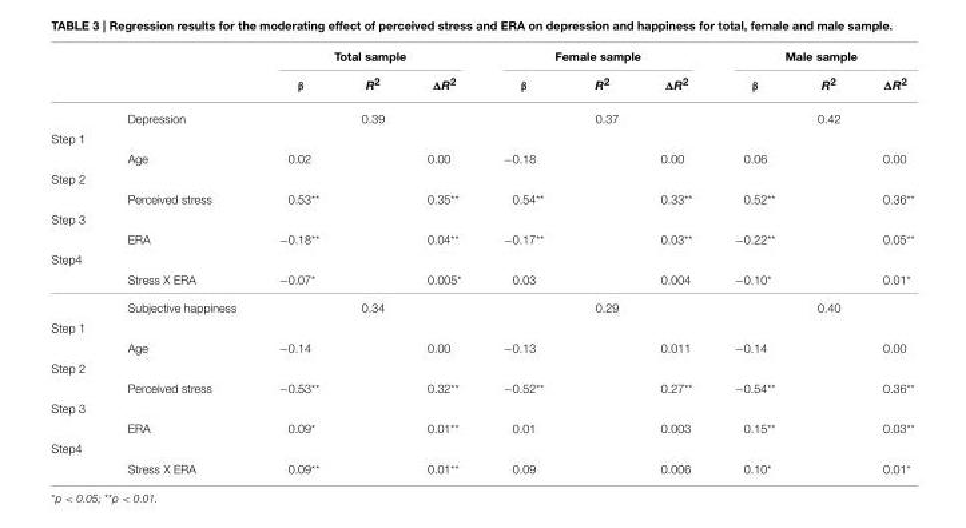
<table><thead><tr><td rowspan="2"></td><td rowspan="2"></td><td colspan="3">Total sample</td><td colspan="3">Female sample</td><td colspan="3">Male sample</td></tr><tr><td>β</td><td>R<sup>2</sup></td><td>ΔR<sup>2</sup></td><td>β</td><td>R<sup>2</sup></td><td>ΔR<sup>2</sup></td><td>β</td><td>R<sup>2</sup></td><td>ΔR<sup>2</sup></td></tr></thead><tbody><tr><td></td><td>Depression</td><td></td><td>0.39</td><td></td><td></td><td>0.37</td><td></td><td></td><td>0.42</td><td></td></tr><tr><td colspan="11">Step 1</td></tr><tr><td></td><td>Age</td><td>0.02</td><td></td><td>0.00</td><td>−0.18</td><td></td><td>0.00</td><td>0.06</td><td></td><td>0.00</td></tr><tr><td colspan="11">Step 2</td></tr><tr><td></td><td>Perceived stress</td><td>0.53**</td><td></td><td>0.35**</td><td>0.54**</td><td></td><td>0.33**</td><td>0.52**</td><td></td><td>0.36**</td></tr><tr><td colspan="11">Step 3</td></tr><tr><td></td><td>ERA</td><td>−0.18**</td><td></td><td>0.04**</td><td>−0.17**</td><td></td><td>0.03**</td><td>−0.22**</td><td></td><td>0.05**</td></tr><tr><td colspan="11">Step4</td></tr><tr><td></td><td>Stress X ERA</td><td>−0.07*</td><td></td><td>0.005*</td><td>0.03</td><td></td><td>0.004</td><td>−0.10*</td><td></td><td>0.01*</td></tr><tr><td></td><td>Subjective happiness</td><td></td><td>0.34</td><td></td><td></td><td>0.29</td><td></td><td></td><td>0.40</td><td></td></tr><tr><td colspan="11">Step 1</td></tr><tr><td></td><td>Age</td><td>−0.14</td><td></td><td>0.00</td><td>−0.13</td><td></td><td>0.011</td><td>−0.14</td><td></td><td>0.00</td></tr><tr><td colspan="11">Step 2</td></tr><tr><td></td><td>Perceived stress</td><td>−0.53**</td><td></td><td>0.32**</td><td>−0.52**</td><td></td><td>0.27**</td><td>−0.54**</td><td></td><td>0.36**</td></tr><tr><td colspan="11">Step 3</td></tr><tr><td></td><td>ERA</td><td>0.09*</td><td></td><td>0.01**</td><td>0.01</td><td></td><td>0.003</td><td>0.15**</td><td></td><td>0.03**</td></tr><tr><td colspan="11">Step4</td></tr><tr><td></td><td>Stress X ERA</td><td>0.09**</td><td></td><td>0.01**</td><td>0.09</td><td></td><td>0.006</td><td>0.10*</td><td></td><td>0.01*</td></tr></tbody></table>